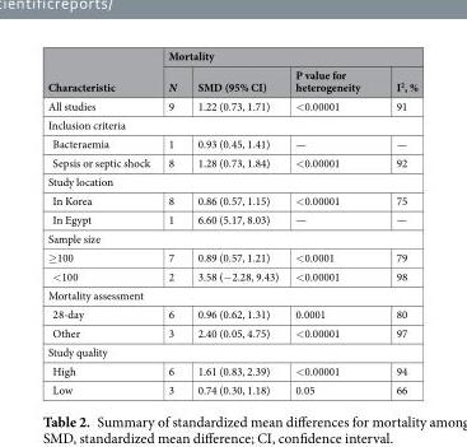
<table><thead><tr><td rowspan="2">Characteristic</td><td colspan="4">Mortality</td></tr><tr><td>N</td><td>SMD (95% CI)</td><td>P value for heterogeneity</td><td>I<sup>2</sup>, %</td></tr></thead><tbody><tr><td>All studies</td><td>9</td><td>1.22 (0.73, 1.71)</td><td>&lt;0.00001</td><td>91</td></tr><tr><td colspan="5">Inclusion criteria</td></tr><tr><td>Bacteraemia</td><td>1</td><td>0.93 (0.45, 1.41)</td><td>—</td><td>—</td></tr><tr><td>Sepsis or septic shock</td><td>8</td><td>1.28 (0.73, 1.84)</td><td>&lt;0.00001</td><td>92</td></tr><tr><td colspan="5">Study location</td></tr><tr><td>In Korea</td><td>8</td><td>0.86 (0.57, 1.15)</td><td>&lt;0.00001</td><td>75</td></tr><tr><td>In Egypt</td><td>1</td><td>6.60 (5.17, 8.03)</td><td>—</td><td>—</td></tr><tr><td colspan="5">Sample size</td></tr><tr><td>≥100</td><td>7</td><td>0.89 (0.57, 1.21)</td><td>&lt;0.0001</td><td>79</td></tr><tr><td>&lt;100</td><td>2</td><td>3.58 (−2.28, 9.43)</td><td>&lt;0.00001</td><td>98</td></tr><tr><td colspan="5">Mortality assessment</td></tr><tr><td>28-day</td><td>6</td><td>0.96 (0.62, 1.31)</td><td>0.0001</td><td>80</td></tr><tr><td>Other</td><td>3</td><td>2.40 (0.05, 4.75)</td><td>&lt;0.00001</td><td>97</td></tr><tr><td colspan="5">Study quality</td></tr><tr><td>High</td><td>6</td><td>1.61 (0.83, 2.39)</td><td>&lt;0.00001</td><td>94</td></tr><tr><td>Low</td><td>3</td><td>0.74 (0.30, 1.18)</td><td>0.05</td><td>66</td></tr></tbody></table>